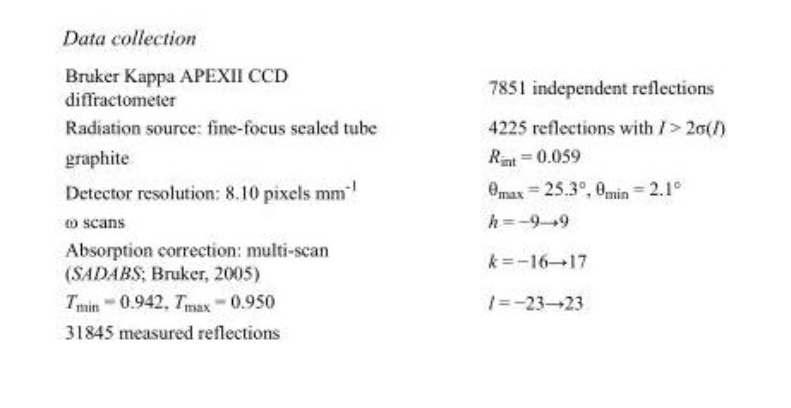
<table><tbody><tr><td>Bruker Kappa APEXII CCD diffractometer</td><td>7851 independent reflections</td></tr><tr><td>Radiation source: fine-focus sealed tube</td><td>4225 reflections with I &gt; 2σ(I)</td></tr><tr><td>graphite</td><td>R<sub>int</sub> = 0.059</td></tr><tr><td>Detector resolution: 8.10 pixels mm<sup>-1</sup></td><td>θ<sub>max</sub> = 25.3°, θ<sub>min</sub> = 2.1°</td></tr><tr><td>ω scans</td><td>h = −9→9</td></tr><tr><td>Absorption correction: multi-scan (SADABS; Bruker, 2005)</td><td>k = −16→17</td></tr><tr><td>T<sub>min</sub> = 0.942, T<sub>max</sub> = 0.950</td><td>l = −23→23</td></tr><tr><td>31845 measured reflections</td><td></td></tr></tbody></table>